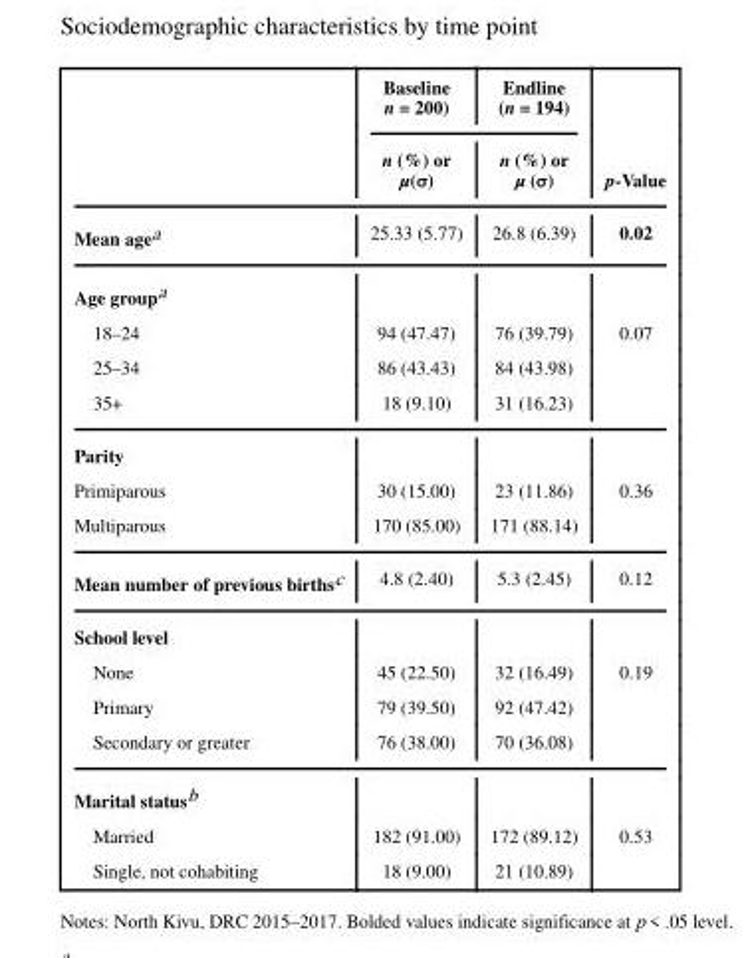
<table><thead><tr><td rowspan="2"></td><td rowspan="2">Baseline n = 200) n (%) or μ(σ)</td><td rowspan="2">Endline (n = 194) n (%) or μ (σ)</td><td rowspan="2">p-Value</td></tr><tr></tr></thead><tbody><tr><td>Mean age<sup>a</sup></td><td>25.33 (5.77)</td><td>26.8 (6.39)</td><td>0.02</td></tr><tr><td colspan="4">Age group<sup>a</sup></td></tr><tr><td>18–24</td><td>94 (47.47)</td><td>76 (39.79)</td><td>0.07</td></tr><tr><td>25–34</td><td>86 (43.43)</td><td>84 (43.98)</td><td></td></tr><tr><td>35+</td><td>18 (9.10)</td><td>31 (16.23)</td><td></td></tr><tr><td colspan="4">Parity</td></tr><tr><td>Primiparous</td><td>30 (15.00)</td><td>23 (11.86)</td><td>0.36</td></tr><tr><td>Multiparous</td><td>170 (85.00)</td><td>171 (88.14)</td><td></td></tr><tr><td>Mean number of previous births<sup>c</sup></td><td>4.8 (2.40)</td><td>5.3 (2.45)</td><td>0.12</td></tr><tr><td colspan="4">School level</td></tr><tr><td>None</td><td>45 (22.50)</td><td>32 (16.49)</td><td>0.19</td></tr><tr><td>Primary</td><td>79 (39.50)</td><td>92 (47.42)</td><td></td></tr><tr><td>Secondary or greater</td><td>76 (38.00)</td><td>70 (36.08)</td><td></td></tr><tr><td colspan="4">Marital status<sup>b</sup></td></tr><tr><td>Married</td><td>182 (91.00)</td><td>172 (89.12)</td><td>0.53</td></tr><tr><td>Single, not cohabiting</td><td>18 (9.00)</td><td>21 (10.89)</td><td></td></tr></tbody></table>